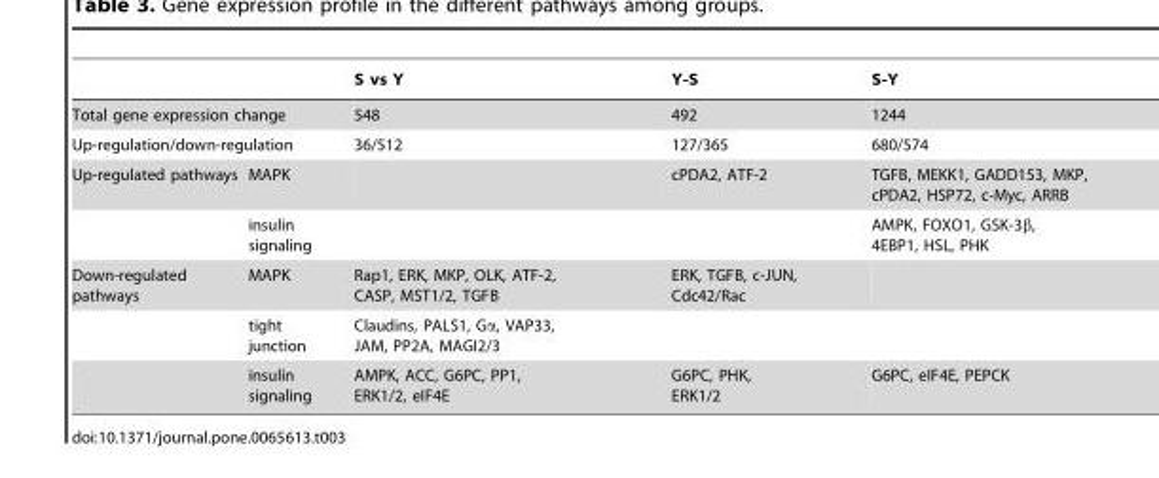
<table><thead><tr><td></td><td></td><td>S vs Y</td><td>Y-S</td><td>S-Y</td></tr></thead><tbody><tr><td colspan="2">Total gene expression change</td><td>548</td><td>492</td><td>1244</td></tr><tr><td colspan="2">Up-regulation/down-regulation</td><td>36/512</td><td>127/365</td><td>680/574</td></tr><tr><td rowspan="2">Up-regulated pathways</td><td>MAPK</td><td></td><td>cPDA2, ATF-2</td><td>TGFB, MEKK1, GADD153, MKP, cPDA2, HSP72, c-Myc, ARRB</td></tr><tr><td>insulin signaling</td><td></td><td></td><td>AMPK, FOXO1, GSK-3β, 4EBP1, HSL, PHK</td></tr><tr><td rowspan="3">Down-regulated pathways</td><td>MAPK</td><td>Rap1, ERK, MKP, OLK, ATF-2, CASP, MST1/2, TGFB</td><td>ERK, TGFB, c-JUN, Cdc42/Rac</td><td></td></tr><tr><td>tight junction</td><td>Claudins, PALS1, Gα, VAP33, JAM, PP2A, MAGI2/3</td><td></td><td></td></tr><tr><td>insulin signaling</td><td>AMPK, ACC, G6PC, PP1, ERK1/2, eIF4E</td><td>G6PC, PHK, ERK1/2</td><td>G6PC, eIF4E, PEPCK</td></tr></tbody></table>